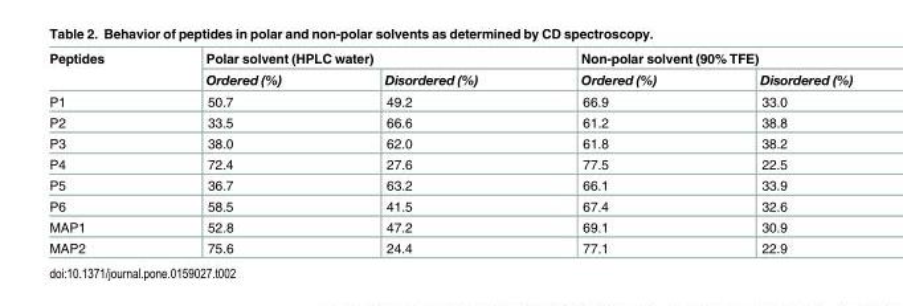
<table><thead><tr><td rowspan="2">Peptides</td><td colspan="2">Polar solvent (HPLC water)</td><td colspan="2">Non-polar solvent (90% TFE)</td></tr><tr><td>Ordered (%)</td><td>Disordered (%)</td><td>Ordered (%)</td><td>Disordered (%)</td></tr></thead><tbody><tr><td>P1</td><td>50.7</td><td>49.2</td><td>66.9</td><td>33.0</td></tr><tr><td>P2</td><td>33.5</td><td>66.6</td><td>61.2</td><td>38.8</td></tr><tr><td>P3</td><td>38.0</td><td>62.0</td><td>61.8</td><td>38.2</td></tr><tr><td>P4</td><td>72.4</td><td>27.6</td><td>77.5</td><td>22.5</td></tr><tr><td>P5</td><td>36.7</td><td>63.2</td><td>66.1</td><td>33.9</td></tr><tr><td>P6</td><td>58.5</td><td>41.5</td><td>67.4</td><td>32.6</td></tr><tr><td>MAP1</td><td>52.8</td><td>47.2</td><td>69.1</td><td>30.9</td></tr><tr><td>MAP2</td><td>75.6</td><td>24.4</td><td>77.1</td><td>22.9</td></tr></tbody></table>